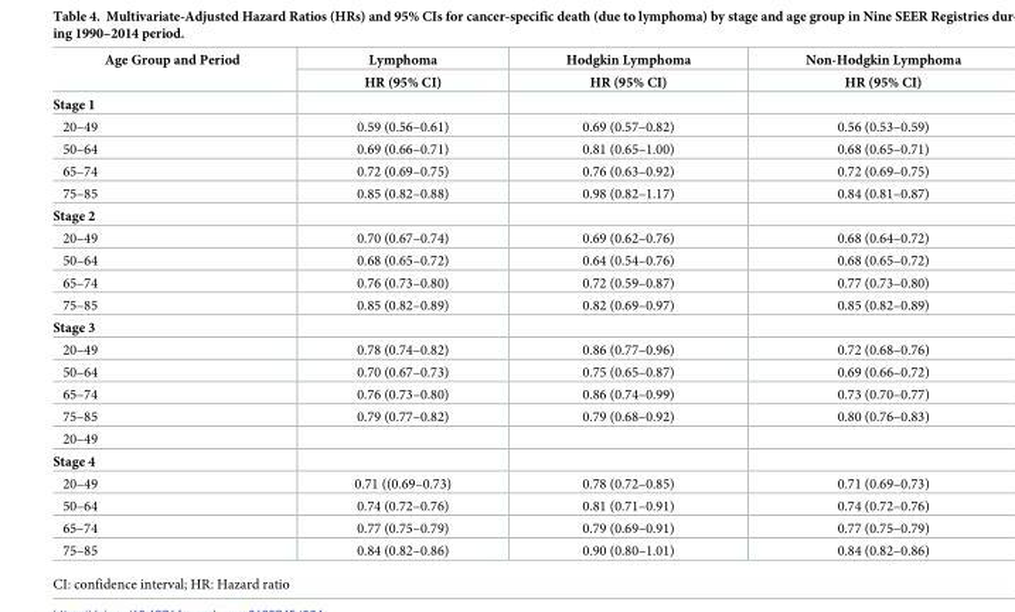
<table><thead><tr><td rowspan="2">Age Group and Period</td><td rowspan="2">Lymphoma HR (95% CI)</td><td rowspan="2">Hodgkin Lymphoma HR (95% CI)</td><td rowspan="2">Non-Hodgkin Lymphoma HR (95% CI)</td></tr><tr></tr></thead><tbody><tr><td colspan="4">Stage 1</td></tr><tr><td>20–49</td><td>0.59 (0.56–0.61)</td><td>0.69 (0.57–0.82)</td><td>0.56 (0.53–0.59)</td></tr><tr><td>50–64</td><td>0.69 (0.66–0.71)</td><td>0.81 (0.65–1.00)</td><td>0.68 (0.65–0.71)</td></tr><tr><td>65–74</td><td>0.72 (0.69–0.75)</td><td>0.76 (0.63–0.92)</td><td>0.72 (0.69–0.75)</td></tr><tr><td>75–85</td><td>0.85 (0.82–0.88)</td><td>0.98 (0.82–1.17)</td><td>0.84 (0.81–0.87)</td></tr><tr><td colspan="4">Stage 2</td></tr><tr><td>20–49</td><td>0.70 (0.67–0.74)</td><td>0.69 (0.62–0.76)</td><td>0.68 (0.64–0.72)</td></tr><tr><td>50–64</td><td>0.68 (0.65–0.72)</td><td>0.64 (0.54–0.76)</td><td>0.68 (0.65–0.72)</td></tr><tr><td>65–74</td><td>0.76 (0.73–0.80)</td><td>0.72 (0.59–0.87)</td><td>0.77 (0.73–0.80)</td></tr><tr><td>75–85</td><td>0.85 (0.82–0.89)</td><td>0.82 (0.69–0.97)</td><td>0.85 (0.82–0.89)</td></tr><tr><td colspan="4">Stage 3</td></tr><tr><td>20–49</td><td>0.78 (0.74–0.82)</td><td>0.86 (0.77–0.96)</td><td>0.72 (0.68–0.76)</td></tr><tr><td>50–64</td><td>0.70 (0.67–0.73)</td><td>0.75 (0.65–0.87)</td><td>0.69 (0.66–0.72)</td></tr><tr><td>65–74</td><td>0.76 (0.73–0.80)</td><td>0.86 (0.74–0.99)</td><td>0.73 (0.70–0.77)</td></tr><tr><td>75–85</td><td>0.79 (0.77–0.82)</td><td>0.79 (0.68–0.92)</td><td>0.80 (0.76–0.83)</td></tr><tr><td colspan="4">20–49</td></tr><tr><td colspan="4">Stage 4</td></tr><tr><td>20–49</td><td>0.71 ((0.69–0.73)</td><td>0.78 (0.72–0.85)</td><td>0.71 (0.69–0.73)</td></tr><tr><td>50–64</td><td>0.74 (0.72–0.76)</td><td>0.81 (0.71–0.91)</td><td>0.74 (0.72–0.76)</td></tr><tr><td>65–74</td><td>0.77 (0.75–0.79)</td><td>0.79 (0.69–0.91)</td><td>0.77 (0.75–0.79)</td></tr><tr><td>75–85</td><td>0.84 (0.82–0.86)</td><td>0.90 (0.80–1.01)</td><td>0.84 (0.82–0.86)</td></tr></tbody></table>